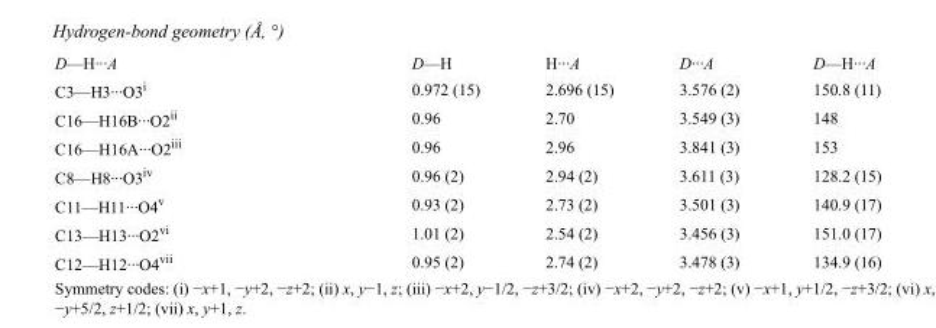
<table><tbody><tr><td>D—H···A</td><td>D—H</td><td>H···A</td><td>D···A</td><td>D—H···A</td></tr><tr><td>C3—H3···O3<sup>i</sup></td><td>0.972 (15)</td><td>2.696 (15)</td><td>3.576 (2)</td><td>150.8 (11)</td></tr><tr><td>C16—H16B···O2<sup>ii</sup></td><td>0.96</td><td>2.70</td><td>3.549 (3)</td><td>148</td></tr><tr><td>C16—H16A···O2<sup>iii</sup></td><td>0.96</td><td>2.96</td><td>3.841 (3)</td><td>153</td></tr><tr><td>C8—H8···O3<sup>iv</sup></td><td>0.96 (2)</td><td>2.94 (2)</td><td>3.611 (3)</td><td>128.2 (15)</td></tr><tr><td>C11—H11···O4<sup>v</sup></td><td>0.93 (2)</td><td>2.73 (2)</td><td>3.501 (3)</td><td>140.9 (17)</td></tr><tr><td>C13—H13···O2<sup>vi</sup></td><td>1.01 (2)</td><td>2.54 (2)</td><td>3.456 (3)</td><td>151.0 (17)</td></tr><tr><td>C12—H12···O4<sup>vii</sup></td><td>0.95 (2)</td><td>2.74 (2)</td><td>3.478 (3)</td><td>134.9 (16)</td></tr></tbody></table>